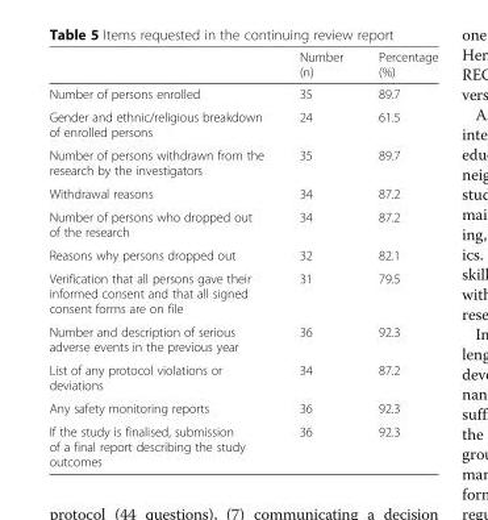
<table><thead><tr><td></td><td>Number (n)</td><td>Percentage (%)</td></tr></thead><tbody><tr><td>Number of persons enrolled</td><td>35</td><td>89.7</td></tr><tr><td>Gender and ethnic/religious breakdown of enrolled persons</td><td>24</td><td>61.5</td></tr><tr><td>Number of persons withdrawn from the research by the investigators</td><td>35</td><td>89.7</td></tr><tr><td>Withdrawal reasons</td><td>34</td><td>87.2</td></tr><tr><td>Number of persons who dropped out of the research</td><td>34</td><td>87.2</td></tr><tr><td>Reasons why persons dropped out</td><td>32</td><td>82.1</td></tr><tr><td>Verification that all persons gave their informed consent and that all signed consent forms are on file</td><td>31</td><td>79.5</td></tr><tr><td>Number and description of serious adverse events in the previous year</td><td>36</td><td>92.3</td></tr><tr><td>List of any protocol violations or deviations</td><td>34</td><td>87.2</td></tr><tr><td>Any safety monitoring reports</td><td>36</td><td>92.3</td></tr><tr><td>If the study is finalised, submission of a final report describing the study outcomes</td><td>36</td><td>92.3</td></tr></tbody></table>